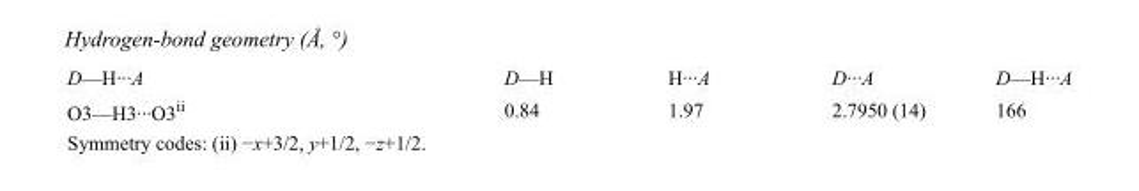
<table><tbody><tr><td>D—H···A</td><td>D—H</td><td>H···A</td><td>D···A</td><td>D—H···A</td></tr><tr><td>O3—H3···O3<sup>ii</sup></td><td>0.84</td><td>1.97</td><td>2.7950 (14)</td><td>166</td></tr></tbody></table>